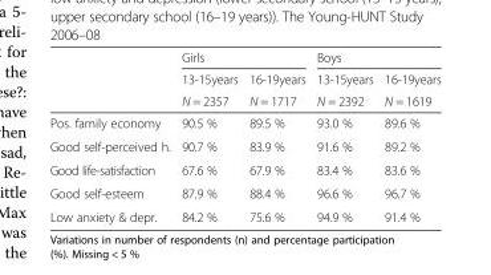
<table><thead><tr><td rowspan="3"></td><td colspan="2">Girls</td><td colspan="2">Boys</td></tr><tr><td rowspan="2">13-15years N = 2357</td><td rowspan="2">16-19years N = 1717</td><td rowspan="2">13-15years N = 2392</td><td rowspan="2">16-19years N = 1619</td></tr><tr></tr></thead><tbody><tr><td>Pos. family economy</td><td>90.5 %</td><td>89.5 %</td><td>93.0 %</td><td>89.6 %</td></tr><tr><td>Good self-perceived h.</td><td>90.7 %</td><td>83.9 %</td><td>91.6 %</td><td>89.2 %</td></tr><tr><td>Good life-satisfaction</td><td>67.6 %</td><td>67.9 %</td><td>83.4 %</td><td>83.6 %</td></tr><tr><td>Good self-esteem</td><td>87.9 %</td><td>88.4 %</td><td>96.6 %</td><td>96.7 %</td></tr><tr><td>Low anxiety &amp; depr.</td><td>84.2 %</td><td>75.6 %</td><td>94.9 %</td><td>91.4 %</td></tr></tbody></table>